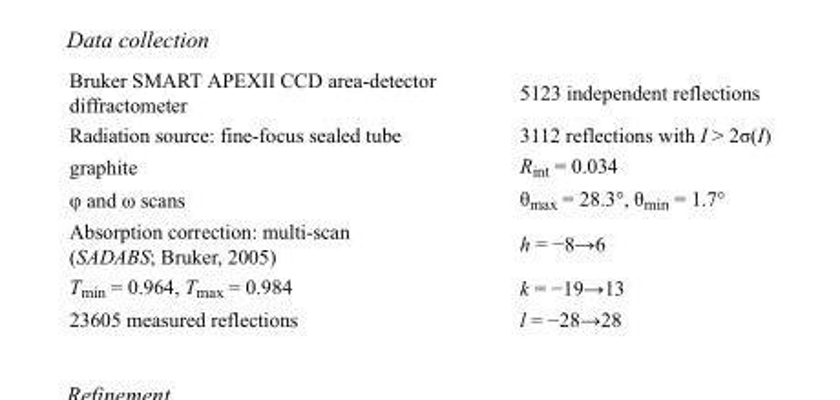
<table><tbody><tr><td>Bruker SMART APEXII CCD area-detector diffractometer</td><td>5123 independent reflections</td></tr><tr><td>Radiation source: fine-focus sealed tube</td><td>3112 reflections with I &gt; 2σ(I)</td></tr><tr><td>graphite</td><td>R<sub>int</sub> = 0.034</td></tr><tr><td>φ and ω scans</td><td>θ<sub>max</sub> = 28.3°, θ<sub>min</sub> = 1.7°</td></tr><tr><td>Absorption correction: multi-scan (SADABS; Bruker, 2005)</td><td>h = −8→6</td></tr><tr><td>T<sub>min</sub> = 0.964, T<sub>max</sub> = 0.984</td><td>k = −19→13</td></tr><tr><td>23605 measured reflections</td><td>l = −28→28</td></tr></tbody></table>